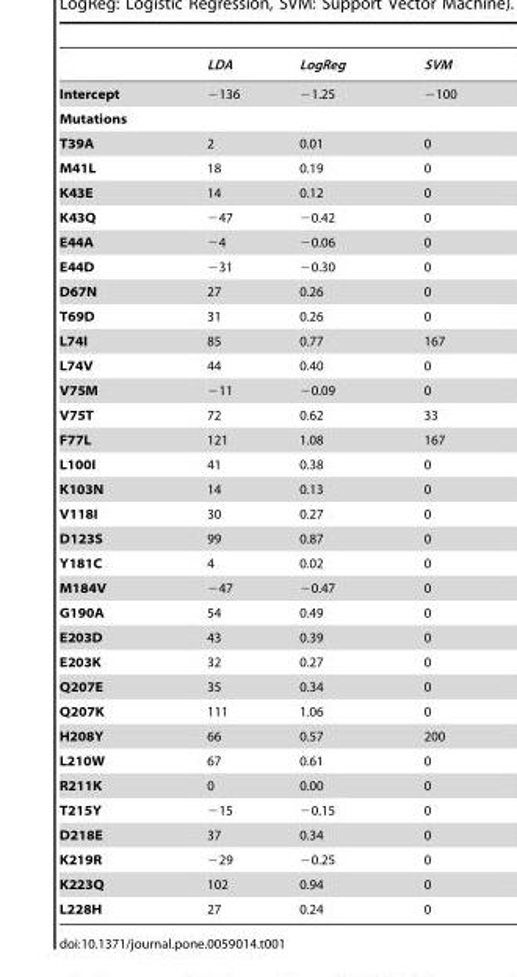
<table><thead><tr><td></td><td>LDA</td><td>LogReg</td><td>SVM</td></tr></thead><tbody><tr><td>Intercept</td><td>−136</td><td>−1.25</td><td>−100</td></tr><tr><td colspan="4">Mutations</td></tr><tr><td>T39A</td><td>2</td><td>0.01</td><td>0</td></tr><tr><td>M41L</td><td>18</td><td>0.19</td><td>0</td></tr><tr><td>K43E</td><td>14</td><td>0.12</td><td>0</td></tr><tr><td>K43Q</td><td>−47</td><td>−0.42</td><td>0</td></tr><tr><td>E44A</td><td>−4</td><td>−0.06</td><td>0</td></tr><tr><td>E44D</td><td>−31</td><td>−0.30</td><td>0</td></tr><tr><td>D67N</td><td>27</td><td>0.26</td><td>0</td></tr><tr><td>T69D</td><td>31</td><td>0.26</td><td>0</td></tr><tr><td>L74I</td><td>85</td><td>0.77</td><td>167</td></tr><tr><td>L74V</td><td>44</td><td>0.40</td><td>0</td></tr><tr><td>V75M</td><td>−11</td><td>−0.09</td><td>0</td></tr><tr><td>V75T</td><td>72</td><td>0.62</td><td>33</td></tr><tr><td>F77L</td><td>121</td><td>1.08</td><td>167</td></tr><tr><td>L100I</td><td>41</td><td>0.38</td><td>0</td></tr><tr><td>K103N</td><td>14</td><td>0.13</td><td>0</td></tr><tr><td>V118I</td><td>30</td><td>0.27</td><td>0</td></tr><tr><td>D123S</td><td>99</td><td>0.87</td><td>0</td></tr><tr><td>Y181C</td><td>4</td><td>0.02</td><td>0</td></tr><tr><td>M184V</td><td>−47</td><td>−0.47</td><td>0</td></tr><tr><td>G190A</td><td>54</td><td>0.49</td><td>0</td></tr><tr><td>E203D</td><td>43</td><td>0.39</td><td>0</td></tr><tr><td>E203K</td><td>32</td><td>0.27</td><td>0</td></tr><tr><td>Q207E</td><td>35</td><td>0.34</td><td>0</td></tr><tr><td>Q207K</td><td>111</td><td>1.06</td><td>0</td></tr><tr><td>H208Y</td><td>66</td><td>0.57</td><td>200</td></tr><tr><td>L210W</td><td>67</td><td>0.61</td><td>0</td></tr><tr><td>R211K</td><td>0</td><td>0.00</td><td>0</td></tr><tr><td>T215Y</td><td>−15</td><td>−0.15</td><td>0</td></tr><tr><td>D218E</td><td>37</td><td>0.34</td><td>0</td></tr><tr><td>K219R</td><td>−29</td><td>−0.25</td><td>0</td></tr><tr><td>K223Q</td><td>102</td><td>0.94</td><td>0</td></tr><tr><td>L228H</td><td>27</td><td>0.24</td><td>0</td></tr></tbody></table>